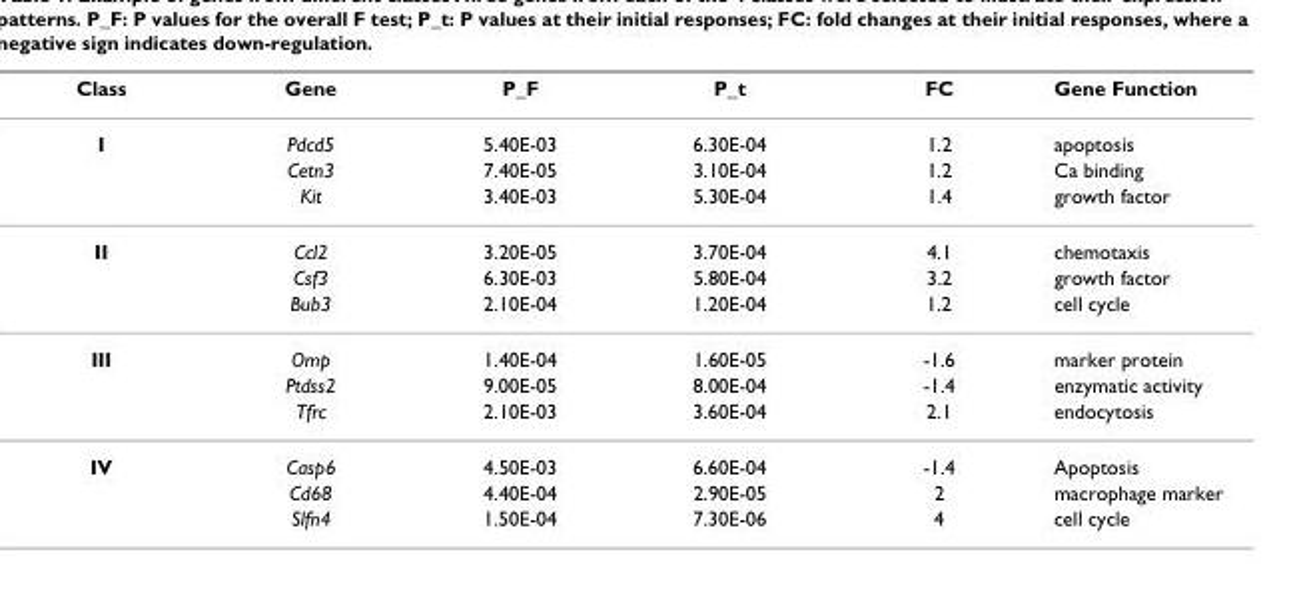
<table><thead><tr><td>Class</td><td>Gene</td><td>P_F</td><td>P_t</td><td>FC</td><td>Gene Function</td></tr></thead><tbody><tr><td rowspan="3">I</td><td>Pdcd5</td><td>5.40E-03</td><td>6.30E-04</td><td>1.2</td><td>apoptosis</td></tr><tr><td>Cetn3</td><td>7.40E-05</td><td>3.10E-04</td><td>1.2</td><td>Ca binding</td></tr><tr><td>Kit</td><td>3.40E-03</td><td>5.30E-04</td><td>1.4</td><td>growth factor</td></tr><tr><td rowspan="3">II</td><td>Ccl2</td><td>3.20E-05</td><td>3.70E-04</td><td>4.1</td><td>chemotaxis</td></tr><tr><td>Csf3</td><td>6.30E-03</td><td>5.80E-04</td><td>3.2</td><td>growth factor</td></tr><tr><td>Bub3</td><td>2.10E-04</td><td>1.20E-04</td><td>1.2</td><td>cell cycle</td></tr><tr><td rowspan="3">III</td><td>Omp</td><td>1.40E-04</td><td>1.60E-05</td><td>-1.6</td><td>marker protein</td></tr><tr><td>Ptdss2</td><td>9.00E-05</td><td>8.00E-04</td><td>-1.4</td><td>enzymatic activity</td></tr><tr><td>Tfrc</td><td>2.10E-03</td><td>3.60E-04</td><td>2.1</td><td>endocytosis</td></tr><tr><td rowspan="3">IV</td><td>Casp6</td><td>4.50E-03</td><td>6.60E-04</td><td>-1.4</td><td>Apoptosis</td></tr><tr><td>Cd68</td><td>4.40E-04</td><td>2.90E-05</td><td>2</td><td>macrophage marker</td></tr><tr><td>Slfn4</td><td>1.50E-04</td><td>7.30E-06</td><td>4</td><td>cell cycle</td></tr></tbody></table>